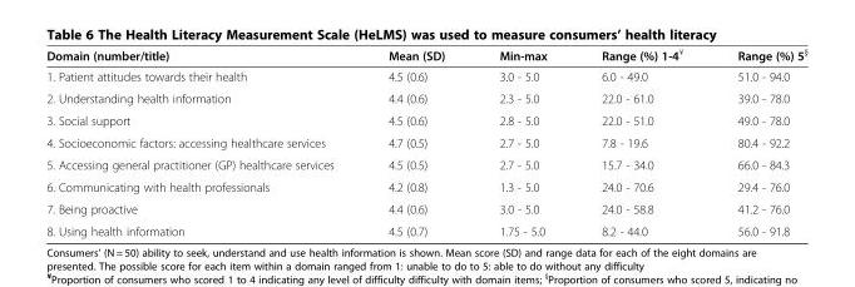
<table><thead><tr><td>Domain (number/title)</td><td>Mean (SD)</td><td>Min-max</td><td>Range (%) 1-4<sup>¥</sup></td><td>Range (%) 5<sup>§</sup></td></tr></thead><tbody><tr><td>1. Patient attitudes towards their health</td><td>4.5 (0.6)</td><td>3.0 - 5.0</td><td>6.0 - 49.0</td><td>51.0 - 94.0</td></tr><tr><td>2. Understanding health information</td><td>4.4 (0.6)</td><td>2.3 - 5.0</td><td>22.0 - 61.0</td><td>39.0 - 78.0</td></tr><tr><td>3. Social support</td><td>4.5 (0.6)</td><td>2.8 - 5.0</td><td>22.0 - 51.0</td><td>49.0 - 78.0</td></tr><tr><td>4. Socioeconomic factors: accessing healthcare services</td><td>4.7 (0.5)</td><td>2.7 - 5.0</td><td>7.8 - 19.6</td><td>80.4 - 92.2</td></tr><tr><td>5. Accessing general practitioner (GP) healthcare services</td><td>4.5 (0.5)</td><td>2.7 - 5.0</td><td>15.7 - 34.0</td><td>66.0 - 84.3</td></tr><tr><td>6. Communicating with health professionals</td><td>4.2 (0.8)</td><td>1.3 - 5.0</td><td>24.0 - 70.6</td><td>29.4 - 76.0</td></tr><tr><td>7. Being proactive</td><td>4.4 (0.6)</td><td>3.0 - 5.0</td><td>24.0 - 58.8</td><td>41.2 - 76.0</td></tr><tr><td>8. Using health information</td><td>4.5 (0.7)</td><td>1.75 - 5.0</td><td>8.2 - 44.0</td><td>56.0 - 91.8</td></tr></tbody></table>